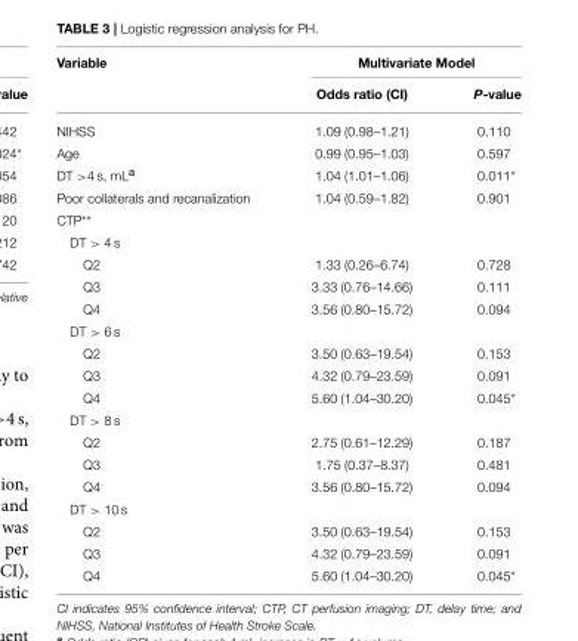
<table><thead><tr><td rowspan="2">Variable</td><td colspan="2">Multivariate Model</td></tr><tr><td>Odds ratio (CI)</td><td>P-value</td></tr></thead><tbody><tr><td>NIHSS</td><td>1.09 (0.98–1.21)</td><td>0.110</td></tr><tr><td>Age</td><td>0.99 (0.95–1.03)</td><td>0.597</td></tr><tr><td>DT &gt;4 s, mL<sup>a</sup></td><td>1.04 (1.01–1.06)</td><td>0.011*</td></tr><tr><td>Poor collaterals and recanalization</td><td>1.04 (0.59–1.82)</td><td>0.901</td></tr><tr><td colspan="3">CTP**</td></tr><tr><td colspan="3">DT &gt; 4 s</td></tr><tr><td>Q2</td><td>1.33 (0.26–6.74)</td><td>0.728</td></tr><tr><td>Q3</td><td>3.33 (0.76–14.66)</td><td>0.111</td></tr><tr><td>Q4</td><td>3.56 (0.80–15.72)</td><td>0.094</td></tr><tr><td colspan="3">DT &gt; 6 s</td></tr><tr><td>Q2</td><td>3.50 (0.63–19.54)</td><td>0.153</td></tr><tr><td>Q3</td><td>4.32 (0.79–23.59)</td><td>0.091</td></tr><tr><td>Q4</td><td>5.60 (1.04–30.20)</td><td>0.045*</td></tr><tr><td colspan="3">DT &gt; 8 s</td></tr><tr><td>Q2</td><td>2.75 (0.61–12.29)</td><td>0.187</td></tr><tr><td>Q3</td><td>1.75 (0.37–8.37)</td><td>0.481</td></tr><tr><td>Q4</td><td>3.56 (0.80–15.72)</td><td>0.094</td></tr><tr><td colspan="3">DT &gt; 10 s</td></tr><tr><td>Q2</td><td>3.50 (0.63–19.54)</td><td>0.153</td></tr><tr><td>Q3</td><td>4.32 (0.79–23.59)</td><td>0.091</td></tr><tr><td>Q4</td><td>5.60 (1.04–30.20)</td><td>0.045*</td></tr></tbody></table>